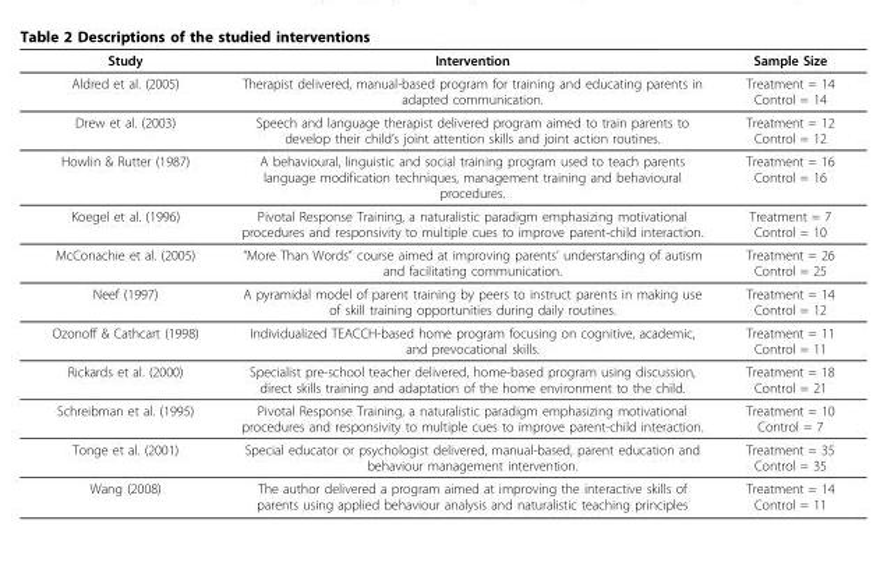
<table><thead><tr><td>Study</td><td>Intervention</td><td>Sample Size</td></tr></thead><tbody><tr><td>Aldred et al. (2005)</td><td>Therapist delivered, manual-based program for training and educating parents in adapted communication.</td><td>Treatment = 14 Control = 14</td></tr><tr><td>Drew et al. (2003)</td><td>Speech and language therapist delivered program aimed to train parents to develop their child’s joint attention skills and joint action routines.</td><td>Treatment = 12 Control = 12</td></tr><tr><td>Howlin &amp; Rutter (1987)</td><td>A behavioural, linguistic and social training program used to teach parents language modification techniques, management training and behavioural procedures.</td><td>Treatment = 16 Control = 16</td></tr><tr><td>Koegel et al. (1996)</td><td>Pivotal Response Training, a naturalistic paradigm emphasizing motivational procedures and responsivity to multiple cues to improve parent-child interaction.</td><td>Treatment = 7 Control = 10</td></tr><tr><td>McConachie et al. (2005)</td><td>“More Than Words” course aimed at improving parents’ understanding of autism and facilitating communication.</td><td>Treatment = 26 Control = 25</td></tr><tr><td>Neef (1997)</td><td>A pyramidal model of parent training by peers to instruct parents in making use of skill training opportunities during daily routines.</td><td>Treatment = 14 Control = 12</td></tr><tr><td>Ozonoff &amp; Cathcart (1998)</td><td>Individualized TEACCH-based home program focusing on cognitive, academic, and prevocational skills.</td><td>Treatment = 11 Control = 11</td></tr><tr><td>Rickards et al. (2000)</td><td>Specialist pre-school teacher delivered, home-based program using discussion, direct skills training and adaptation of the home environment to the child.</td><td>Treatment = 18 Control = 21</td></tr><tr><td>Schreibman et al. (1995)</td><td>Pivotal Response Training, a naturalistic paradigm emphasizing motivational procedures and responsivity to multiple cues to improve parent-child interaction.</td><td>Treatment = 10 Control = 7</td></tr><tr><td>Tonge et al. (2001)</td><td>Special educator or psychologist delivered, manual-based, parent education and behaviour management intervention.</td><td>Treatment = 35 Control = 35</td></tr><tr><td>Wang (2008)</td><td>The author delivered a program aimed at improving the interactive skills of parents using applied behaviour analysis and naturalistic teaching principles</td><td>Treatment = 14 Control = 11</td></tr></tbody></table>